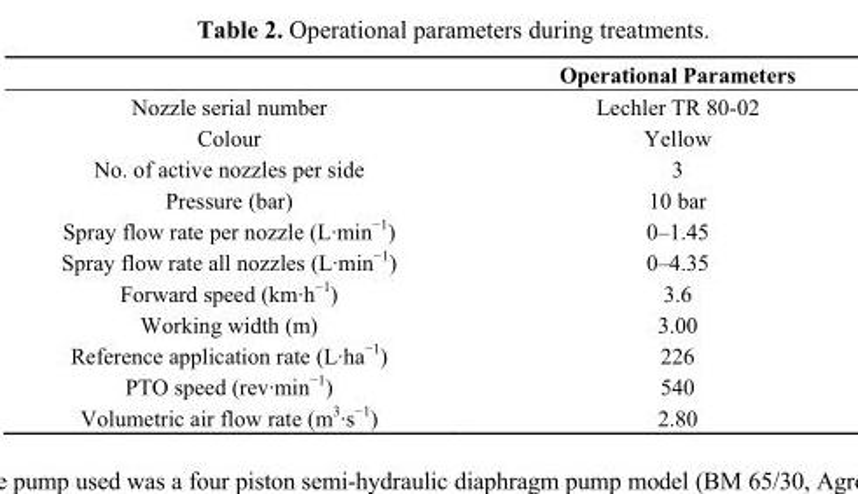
<table><thead><tr><td></td><td>Operational Parameters</td></tr></thead><tbody><tr><td>Nozzle serial number</td><td>Lechler TR 80-02</td></tr><tr><td>Colour</td><td>Yellow</td></tr><tr><td>No. of active nozzles per side</td><td>3</td></tr><tr><td>Pressure (bar)</td><td>10 bar</td></tr><tr><td>Spray flow rate per nozzle (L·min<sup>−1</sup>)</td><td>0–1.45</td></tr><tr><td>Spray flow rate all nozzles (L·min<sup>−1</sup>)</td><td>0–4.35</td></tr><tr><td>Forward speed (km·h<sup>−1</sup>)</td><td>3.6</td></tr><tr><td>Working width (m)</td><td>3.00</td></tr><tr><td>Reference application rate (L·ha<sup>−1</sup>)</td><td>226</td></tr><tr><td>PTO speed (rev·min<sup>−1</sup>)</td><td>540</td></tr><tr><td>Volumetric air flow rate (m<sup>3</sup>·s<sup>−1</sup>)</td><td>2.80</td></tr></tbody></table>